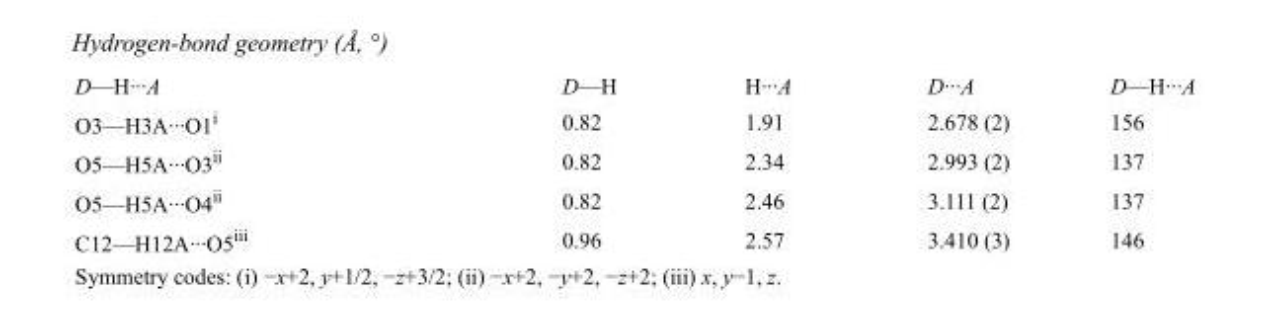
<table><tbody><tr><td>D—H···A</td><td>D—H</td><td>H···A</td><td>D···A</td><td>D—H···A</td></tr><tr><td>O3—H3A···O1<sup>i</sup></td><td>0.82</td><td>1.91</td><td>2.678 (2)</td><td>156</td></tr><tr><td>O5—H5A···O3<sup>ii</sup></td><td>0.82</td><td>2.34</td><td>2.993 (2)</td><td>137</td></tr><tr><td>O5—H5A···O4<sup>ii</sup></td><td>0.82</td><td>2.46</td><td>3.111 (2)</td><td>137</td></tr><tr><td>C12—H12A···O5<sup>iii</sup></td><td>0.96</td><td>2.57</td><td>3.410 (3)</td><td>146</td></tr></tbody></table>